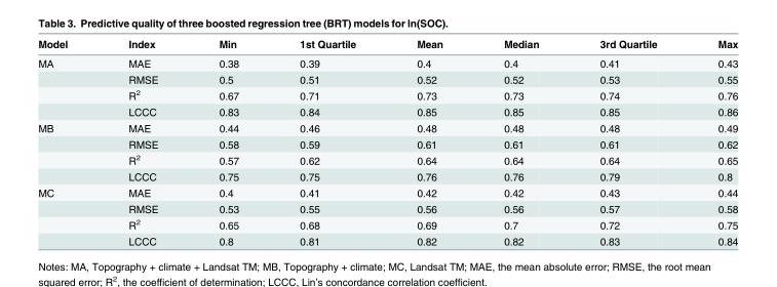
<table><thead><tr><td>Model</td><td>Index</td><td>Min</td><td>1st Quartile</td><td>Mean</td><td>Median</td><td>3rd Quartile</td><td>Max</td></tr></thead><tbody><tr><td rowspan="4">MA</td><td>MAE</td><td>0.38</td><td>0.39</td><td>0.4</td><td>0.4</td><td>0.41</td><td>0.43</td></tr><tr><td>RMSE</td><td>0.5</td><td>0.51</td><td>0.52</td><td>0.52</td><td>0.53</td><td>0.55</td></tr><tr><td>R<sup>2</sup></td><td>0.67</td><td>0.71</td><td>0.73</td><td>0.73</td><td>0.74</td><td>0.76</td></tr><tr><td>LCCC</td><td>0.83</td><td>0.84</td><td>0.85</td><td>0.85</td><td>0.85</td><td>0.86</td></tr><tr><td rowspan="4">MB</td><td>MAE</td><td>0.44</td><td>0.46</td><td>0.48</td><td>0.48</td><td>0.48</td><td>0.49</td></tr><tr><td>RMSE</td><td>0.58</td><td>0.59</td><td>0.61</td><td>0.61</td><td>0.61</td><td>0.62</td></tr><tr><td>R<sup>2</sup></td><td>0.57</td><td>0.62</td><td>0.64</td><td>0.64</td><td>0.64</td><td>0.65</td></tr><tr><td>LCCC</td><td>0.75</td><td>0.75</td><td>0.76</td><td>0.76</td><td>0.79</td><td>0.8</td></tr><tr><td rowspan="4">MC</td><td>MAE</td><td>0.4</td><td>0.41</td><td>0.42</td><td>0.42</td><td>0.43</td><td>0.44</td></tr><tr><td>RMSE</td><td>0.53</td><td>0.55</td><td>0.56</td><td>0.56</td><td>0.57</td><td>0.58</td></tr><tr><td>R<sup>2</sup></td><td>0.65</td><td>0.68</td><td>0.69</td><td>0.7</td><td>0.72</td><td>0.75</td></tr><tr><td>LCCC</td><td>0.8</td><td>0.81</td><td>0.82</td><td>0.82</td><td>0.83</td><td>0.84</td></tr></tbody></table>